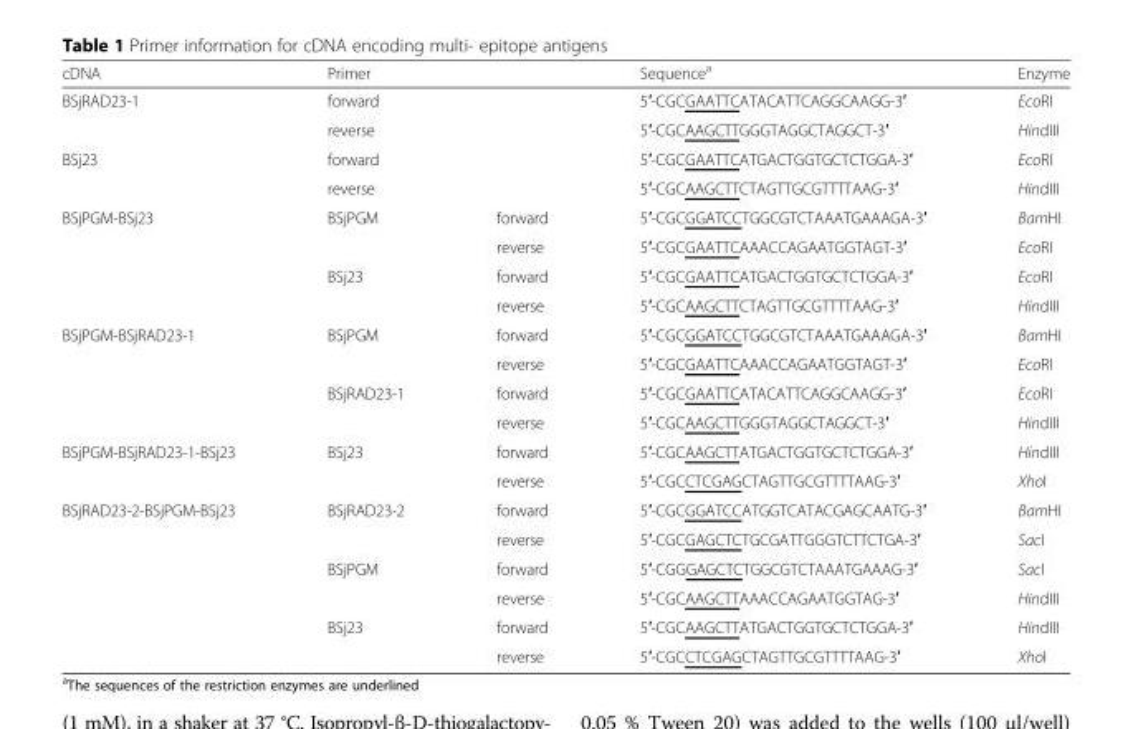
<table><thead><tr><td>cDNA</td><td colspan="2">Primer</td><td>Sequence<sup>a</sup></td><td>Enzyme</td></tr></thead><tbody><tr><td rowspan="2">BSjRAD23-1</td><td colspan="2">forward</td><td>5′-CGCGAATTCATACATTCAGGCAAGG-3′</td><td>EcoRI</td></tr><tr><td colspan="2">reverse</td><td>5′-CGCAAGCTTGGGTAGGCTAGGCT-3′</td><td>HindIII</td></tr><tr><td rowspan="2">BSj23</td><td colspan="2">forward</td><td>5′-CGCGAATTCATGACTGGTGCTCTGGA-3′</td><td>EcoRI</td></tr><tr><td colspan="2">reverse</td><td>5′-CGCAAGCTTCTAGTTGCGTTTTAAG-3′</td><td>HindIII</td></tr><tr><td rowspan="4">BSjPGM-BSj23</td><td rowspan="2">BSjPGM</td><td>forward</td><td>5′-CGCGGATCCTGGCGTCTAAATGAAAGA-3′</td><td>BamHI</td></tr><tr><td>reverse</td><td>5′-CGCGAATTCAAACCAGAATGGTAGT-3′</td><td>EcoRI</td></tr><tr><td rowspan="2">BSj23</td><td>forward</td><td>5′-CGCGAATTCATGACTGGTGCTCTGGA-3′</td><td>EcoRI</td></tr><tr><td>reverse</td><td>5′-CGCAAGCTTCTAGTTGCGTTTTAAG-3′</td><td>HindIII</td></tr><tr><td rowspan="4">BSjPGM-BSjRAD23-1</td><td rowspan="2">BSjPGM</td><td>forward</td><td>5′-CGCGGATCCTGGCGTCTAAATGAAAGA-3′</td><td>BamHI</td></tr><tr><td>reverse</td><td>5′-CGCGAATTCAAACCAGAATGGTAGT-3′</td><td>EcoRI</td></tr><tr><td rowspan="2">BSjRAD23-1</td><td>forward</td><td>5′-CGCGAATTCATACATTCAGGCAAGG-3′</td><td>EcoRI</td></tr><tr><td>reverse</td><td>5′-CGCAAGCTTGGGTAGGCTAGGCT-3′</td><td>HindIII</td></tr><tr><td rowspan="2">BSjPGM-BSjRAD23-1-BSj23</td><td rowspan="2">BSj23</td><td>forward</td><td>5′-CGCAAGCTTATGACTGGTGCTCTGGA-3′</td><td>HindIII</td></tr><tr><td>reverse</td><td>5′-CGCCTCGAGCTAGTTGCGTTTTAAG-3′</td><td>XhoI</td></tr><tr><td rowspan="6">BSjRAD23-2-BSjPGM-BSj23</td><td rowspan="2">BSjRAD23-2</td><td>forward</td><td>5′-CGCGGATCCATGGTCATACGAGCAATG-3′</td><td>BamHI</td></tr><tr><td>reverse</td><td>5′-CGCGAGCTCTGCGATTGGGTCTTCTGA-3′</td><td>SacI</td></tr><tr><td rowspan="2">BSjPGM</td><td>forward</td><td>5′-CGGGAGCTCTGGCGTCTAAATGAAAG-3′</td><td>SacI</td></tr><tr><td>reverse</td><td>5′-CGCAAGCTTAAACCAGAATGGTAG-3′</td><td>HindIII</td></tr><tr><td rowspan="2">BSj23</td><td>forward</td><td>5′-CGCAAGCTTATGACTGGTGCTCTGGA-3′</td><td>HindIII</td></tr><tr><td>reverse</td><td>5′-CGCCTCGAGCTAGTTGCGTTTTAAG-3′</td><td>XhoI</td></tr></tbody></table>